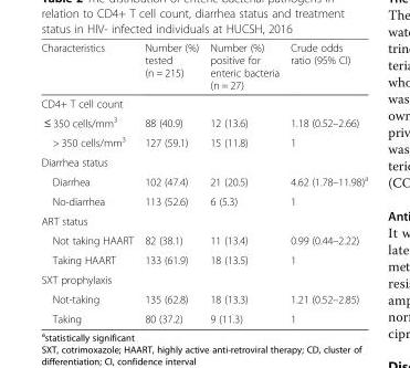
<table><thead><tr><td>Characteristics</td><td>Number (%) tested (n = 215)</td><td>Number (%) positive for enteric bacteria (n = 27)</td><td>Crude odds ratio (95% CI)</td></tr></thead><tbody><tr><td colspan="4">CD4+ T cell count</td></tr><tr><td>≤ 350 cells/mm<sup>3</sup></td><td>88 (40.9)</td><td>12 (13.6)</td><td>1.18 (0.52–2.66)</td></tr><tr><td>&gt; 350 cells/mm<sup>3</sup></td><td>127 (59.1)</td><td>15 (11.8)</td><td>1</td></tr><tr><td colspan="4">Diarrhea status</td></tr><tr><td>Diarrhea</td><td>102 (47.4)</td><td>21 (20.5)</td><td>4.62 (1.78–11.98)<sup>a</sup></td></tr><tr><td>No-diarrhea</td><td>113 (52.6)</td><td>6 (5.3)</td><td>1</td></tr><tr><td colspan="4">ART status</td></tr><tr><td>Not taking HAART</td><td>82 (38.1)</td><td>11 (13.4)</td><td>0.99 (0.44–2.22)</td></tr><tr><td>Taking HAART</td><td>133 (61.9)</td><td>18 (13.5)</td><td>1</td></tr><tr><td colspan="4">SXT prophylaxis</td></tr><tr><td>Not-taking</td><td>135 (62.8)</td><td>18 (13.3)</td><td>1.21 (0.52–2.85)</td></tr><tr><td>Taking</td><td>80 (37.2)</td><td>9 (11.3)</td><td>1</td></tr></tbody></table>